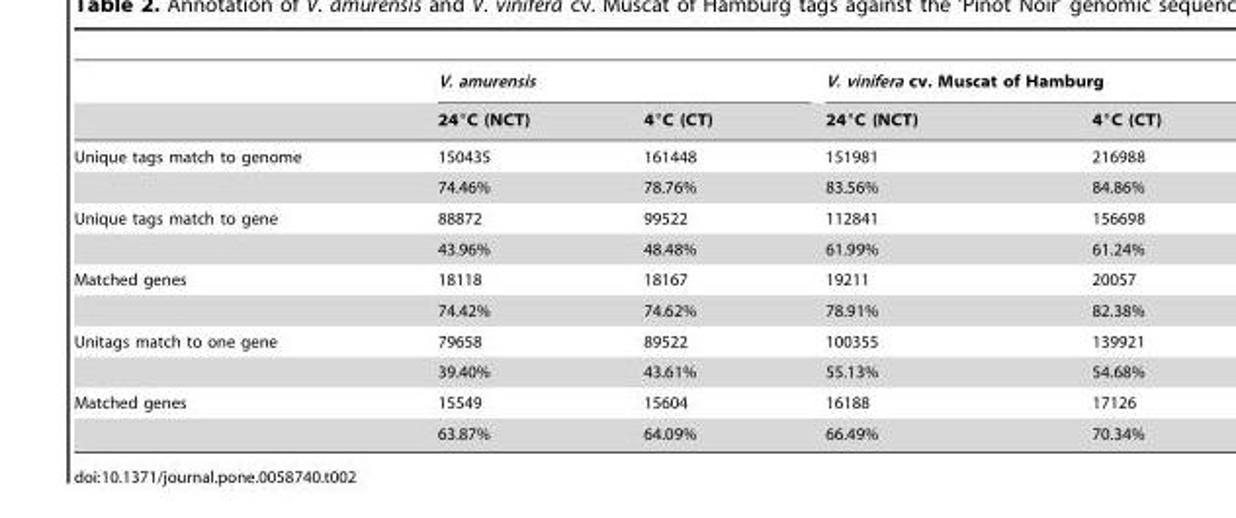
<table><thead><tr><td rowspan="2"></td><td colspan="2">V. amurensis</td><td colspan="2">V. vinifera cv. Muscat of Hamburg</td></tr><tr><td>24°C (NCT)</td><td>4°C (CT)</td><td>24°C (NCT)</td><td>4°C (CT)</td></tr></thead><tbody><tr><td rowspan="2">Unique tags match to genome</td><td>150435</td><td>161448</td><td>151981</td><td>216988</td></tr><tr><td>74.46%</td><td>78.76%</td><td>83.56%</td><td>84.86%</td></tr><tr><td rowspan="2">Unique tags match to gene</td><td>88872</td><td>99522</td><td>112841</td><td>156698</td></tr><tr><td>43.96%</td><td>48.48%</td><td>61.99%</td><td>61.24%</td></tr><tr><td rowspan="2">Matched genes</td><td>18118</td><td>18167</td><td>19211</td><td>20057</td></tr><tr><td>74.42%</td><td>74.62%</td><td>78.91%</td><td>82.38%</td></tr><tr><td rowspan="2">Unitags match to one gene</td><td>79658</td><td>89522</td><td>100355</td><td>139921</td></tr><tr><td>39.40%</td><td>43.61%</td><td>55.13%</td><td>54.68%</td></tr><tr><td rowspan="2">Matched genes</td><td>15549</td><td>15604</td><td>16188</td><td>17126</td></tr><tr><td>63.87%</td><td>64.09%</td><td>66.49%</td><td>70.34%</td></tr></tbody></table>